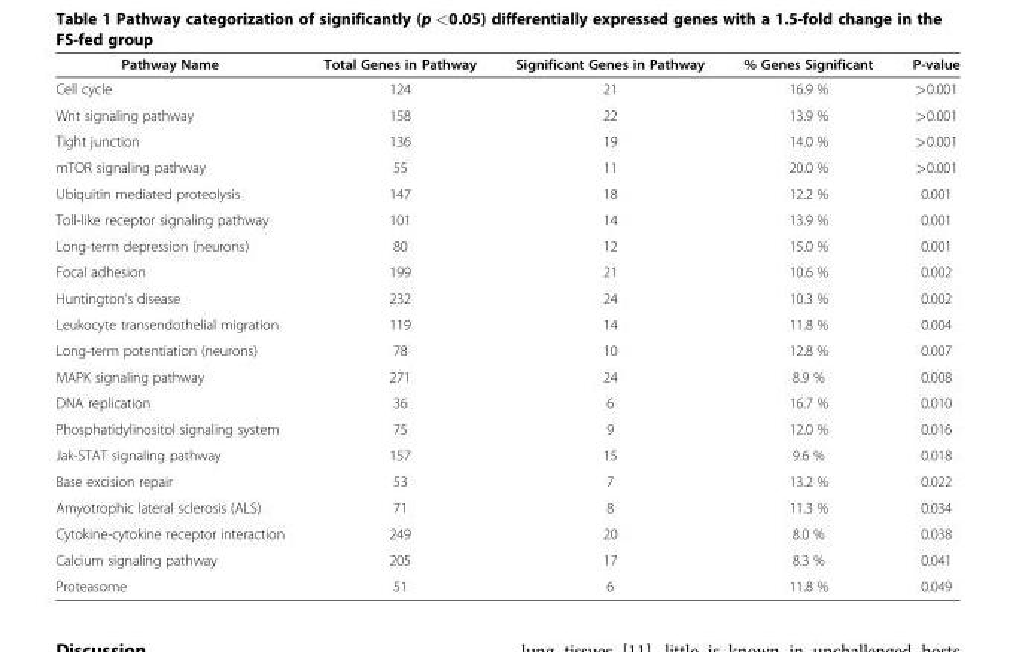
<table><thead><tr><td>Pathway Name</td><td>Total Genes in Pathway</td><td>Significant Genes in Pathway</td><td>% Genes Significant</td><td>P-value</td></tr></thead><tbody><tr><td>Cell cycle</td><td>124</td><td>21</td><td>16.9 %</td><td>&gt;0.001</td></tr><tr><td>Wnt signaling pathway</td><td>158</td><td>22</td><td>13.9 %</td><td>&gt;0.001</td></tr><tr><td>Tight junction</td><td>136</td><td>19</td><td>14.0 %</td><td>&gt;0.001</td></tr><tr><td>mTOR signaling pathway</td><td>55</td><td>11</td><td>20.0 %</td><td>&gt;0.001</td></tr><tr><td>Ubiquitin mediated proteolysis</td><td>147</td><td>18</td><td>12.2 %</td><td>0.001</td></tr><tr><td>Toll-like receptor signaling pathway</td><td>101</td><td>14</td><td>13.9 %</td><td>0.001</td></tr><tr><td>Long-term depression (neurons)</td><td>80</td><td>12</td><td>15.0 %</td><td>0.001</td></tr><tr><td>Focal adhesion</td><td>199</td><td>21</td><td>10.6 %</td><td>0.002</td></tr><tr><td>Huntington’s disease</td><td>232</td><td>24</td><td>10.3 %</td><td>0.002</td></tr><tr><td>Leukocyte transendothelial migration</td><td>119</td><td>14</td><td>11.8 %</td><td>0.004</td></tr><tr><td>Long-term potentiation (neurons)</td><td>78</td><td>10</td><td>12.8 %</td><td>0.007</td></tr><tr><td>MAPK signaling pathway</td><td>271</td><td>24</td><td>8.9 %</td><td>0.008</td></tr><tr><td>DNA replication</td><td>36</td><td>6</td><td>16.7 %</td><td>0.010</td></tr><tr><td>Phosphatidylinositol signaling system</td><td>75</td><td>9</td><td>12.0 %</td><td>0.016</td></tr><tr><td>Jak-STAT signaling pathway</td><td>157</td><td>15</td><td>9.6 %</td><td>0.018</td></tr><tr><td>Base excision repair</td><td>53</td><td>7</td><td>13.2 %</td><td>0.022</td></tr><tr><td>Amyotrophic lateral sclerosis (ALS)</td><td>71</td><td>8</td><td>11.3 %</td><td>0.034</td></tr><tr><td>Cytokine-cytokine receptor interaction</td><td>249</td><td>20</td><td>8.0 %</td><td>0.038</td></tr><tr><td>Calcium signaling pathway</td><td>205</td><td>17</td><td>8.3 %</td><td>0.041</td></tr><tr><td>Proteasome</td><td>51</td><td>6</td><td>11.8 %</td><td>0.049</td></tr></tbody></table>